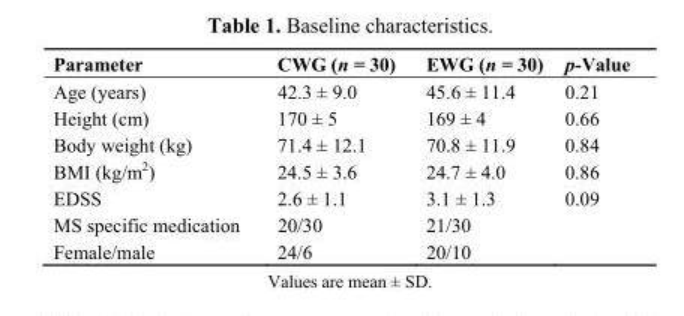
<table><thead><tr><td>Parameter</td><td>CWG (n = 30)</td><td>EWG (n = 30)</td><td>p-Value</td></tr></thead><tbody><tr><td>Age (years)</td><td>42.3 ± 9.0</td><td>45.6 ± 11.4</td><td>0.21</td></tr><tr><td>Height (cm)</td><td>170 ± 5</td><td>169 ± 4</td><td>0.66</td></tr><tr><td>Body weight (kg)</td><td>71.4 ± 12.1</td><td>70.8 ± 11.9</td><td>0.84</td></tr><tr><td>BMI (kg/m<sup>2</sup>)</td><td>24.5 ± 3.6</td><td>24.7 ± 4.0</td><td>0.86</td></tr><tr><td>EDSS</td><td>2.6 ± 1.1</td><td>3.1 ± 1.3</td><td>0.09</td></tr><tr><td>MS specific medication</td><td>20/30</td><td>21/30</td><td></td></tr><tr><td>Female/male</td><td>24/6</td><td>20/10</td><td></td></tr></tbody></table>